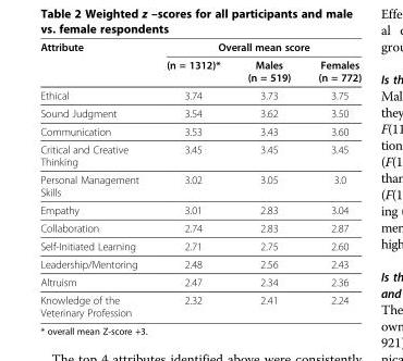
<table><thead><tr><td rowspan="2">Attribute</td><td colspan="3">Overall mean score</td></tr><tr><td>(n = 1312)*</td><td>Males (n = 519)</td><td>Females (n = 772)</td></tr></thead><tbody><tr><td>Ethical</td><td>3.74</td><td>3.73</td><td>3.75</td></tr><tr><td>Sound Judgment</td><td>3.54</td><td>3.62</td><td>3.50</td></tr><tr><td>Communication</td><td>3.53</td><td>3.43</td><td>3.60</td></tr><tr><td>Critical and Creative Thinking</td><td>3.45</td><td>3.45</td><td>3.45</td></tr><tr><td>Personal Management Skills</td><td>3.02</td><td>3.05</td><td>3.0</td></tr><tr><td>Empathy</td><td>3.01</td><td>2.83</td><td>3.04</td></tr><tr><td>Collaboration</td><td>2.74</td><td>2.83</td><td>2.87</td></tr><tr><td>Self-Initiated Learning</td><td>2.71</td><td>2.75</td><td>2.60</td></tr><tr><td>Leadership/Mentoring</td><td>2.48</td><td>2.56</td><td>2.43</td></tr><tr><td>Altruism</td><td>2.47</td><td>2.34</td><td>2.36</td></tr><tr><td>Knowledge of the Veterinary Profession</td><td>2.32</td><td>2.41</td><td>2.24</td></tr></tbody></table>